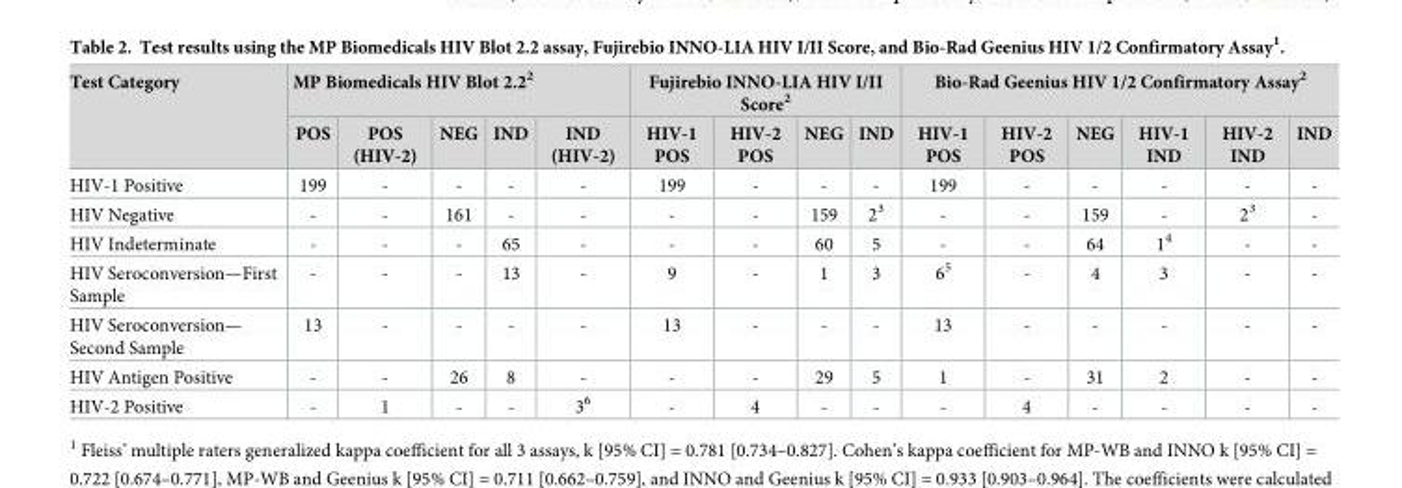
<table><thead><tr><td rowspan="2">Test Category</td><td colspan="5">MP Biomedicals HIV Blot 2.2<sup>2</sup></td><td colspan="4">Fujirebio INNO-LIA HIV I/II Score<sup>2</sup></td><td colspan="6">Bio-Rad Geenius HIV 1/2 Confirmatory Assay<sup>2</sup></td></tr><tr><td>POS</td><td>POS (HIV-2)</td><td>NEG</td><td>IND</td><td>IND (HIV-2)</td><td>HIV-1 POS</td><td>HIV-2 POS</td><td>NEG</td><td>IND</td><td>HIV-1 POS</td><td>HIV-2 POS</td><td>NEG</td><td>HIV-1 IND</td><td>HIV-2 IND</td><td>IND</td></tr></thead><tbody><tr><td>HIV-1 Positive</td><td>199</td><td>-</td><td>-</td><td>-</td><td>-</td><td>199</td><td>-</td><td>-</td><td>-</td><td>199</td><td>-</td><td>-</td><td>-</td><td>-</td><td>-</td></tr><tr><td>HIV Negative</td><td>-</td><td>-</td><td>161</td><td>-</td><td>-</td><td>-</td><td>-</td><td>159</td><td>2<sup>3</sup></td><td>-</td><td>-</td><td>159</td><td>-</td><td>2<sup>3</sup></td><td>-</td></tr><tr><td>HIV Indeterminate</td><td>-</td><td>-</td><td>-</td><td>65</td><td>-</td><td>-</td><td>-</td><td>60</td><td>5</td><td>-</td><td>-</td><td>64</td><td>1<sup>4</sup></td><td>-</td><td>-</td></tr><tr><td>HIV Seroconversion—First Sample</td><td>-</td><td>-</td><td>-</td><td>13</td><td>-</td><td>9</td><td>-</td><td>1</td><td>3</td><td>6<sup>5</sup></td><td>-</td><td>4</td><td>3</td><td>-</td><td>-</td></tr><tr><td>HIV Seroconversion— Second Sample</td><td>13</td><td>-</td><td>-</td><td>-</td><td>-</td><td>13</td><td>-</td><td>-</td><td>-</td><td>13</td><td>-</td><td>-</td><td>-</td><td>-</td><td>-</td></tr><tr><td>HIV Antigen Positive</td><td>-</td><td>-</td><td>26</td><td>8</td><td>-</td><td>-</td><td>-</td><td>29</td><td>5</td><td>1</td><td>-</td><td>31</td><td>2</td><td>-</td><td>-</td></tr><tr><td>HIV-2 Positive</td><td>-</td><td>1</td><td>-</td><td>-</td><td>3<sup>6</sup></td><td>-</td><td>4</td><td>-</td><td>-</td><td>-</td><td>4</td><td>-</td><td>-</td><td>-</td><td>-</td></tr></tbody></table>